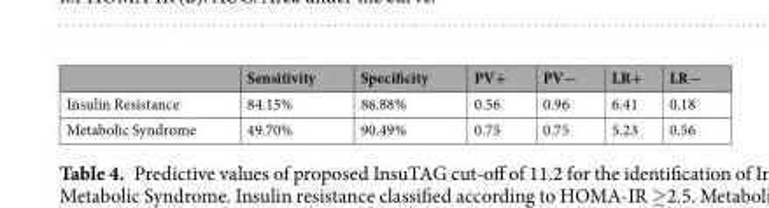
<table><thead><tr><td></td><td>Sensitivity</td><td>Specificity</td><td>PV+</td><td>PV−</td><td>LR+</td><td>LR−</td></tr></thead><tbody><tr><td>Insulin Resistance</td><td>84.15%</td><td>86.88%</td><td>0.56</td><td>0.96</td><td>6.41</td><td>0.18</td></tr><tr><td>Metabolic Syndrome</td><td>49.70%</td><td>90.49%</td><td>0.75</td><td>0.75</td><td>5.23</td><td>0.56</td></tr></tbody></table>